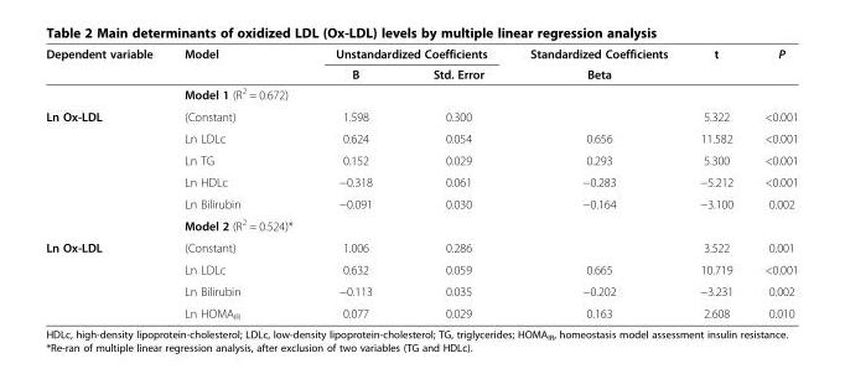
<table><thead><tr><td rowspan="2">Dependent variable</td><td rowspan="2">Model</td><td colspan="2">Unstandardized Coefficients</td><td rowspan="2">Standardized Coefficients Beta</td><td rowspan="2">t</td><td rowspan="2">P</td></tr><tr><td>B</td><td>Std. Error</td></tr></thead><tbody><tr><td></td><td>Model 1 (R<sup>2</sup> = 0.672)</td><td></td><td></td><td></td><td></td><td></td></tr><tr><td rowspan="6">Ln Ox-LDL</td><td>(Constant)</td><td>1.598</td><td>0.300</td><td></td><td>5.322</td><td>&lt;0.001</td></tr><tr><td>Ln LDLc</td><td>0.624</td><td>0.054</td><td>0.656</td><td>11.582</td><td>&lt;0.001</td></tr><tr><td>Ln TG</td><td>0.152</td><td>0.029</td><td>0.293</td><td>5.300</td><td>&lt;0.001</td></tr><tr><td>Ln HDLc</td><td>−0.318</td><td>0.061</td><td>−0.283</td><td>−5.212</td><td>&lt;0.001</td></tr><tr><td>Ln Bilirubin</td><td>−0.091</td><td>0.030</td><td>−0.164</td><td>−3.100</td><td>0.002</td></tr><tr><td>Model 2 (R<sup>2</sup> = 0.524)*</td><td></td><td></td><td></td><td></td><td></td></tr><tr><td rowspan="4">Ln Ox-LDL</td><td>(Constant)</td><td>1.006</td><td>0.286</td><td></td><td>3.522</td><td>0.001</td></tr><tr><td>Ln LDLc</td><td>0.632</td><td>0.059</td><td>0.665</td><td>10.719</td><td>&lt;0.001</td></tr><tr><td>Ln Bilirubin</td><td>−0.113</td><td>0.035</td><td>−0.202</td><td>−3.231</td><td>0.002</td></tr><tr><td>Ln HOMA<sub>IR</sub></td><td>0.077</td><td>0.029</td><td>0.163</td><td>2.608</td><td>0.010</td></tr></tbody></table>